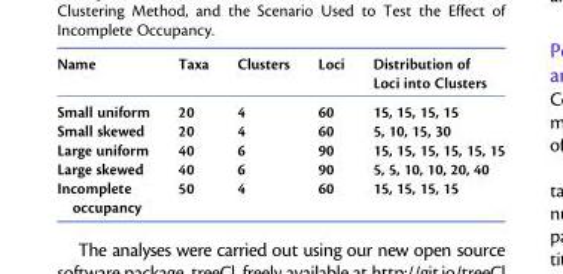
<table><thead><tr><td>Name</td><td>Taxa</td><td>Clusters</td><td>Loci</td><td>Distribution of Loci into Clusters</td></tr></thead><tbody><tr><td>Small uniform</td><td>20</td><td>4</td><td>60</td><td>15, 15, 15, 15</td></tr><tr><td>Small skewed</td><td>20</td><td>4</td><td>60</td><td>5, 10, 15, 30</td></tr><tr><td>Large uniform</td><td>40</td><td>6</td><td>90</td><td>15, 15, 15, 15, 15, 15</td></tr><tr><td>Large skewed</td><td>40</td><td>6</td><td>90</td><td>5, 5, 10, 10, 20, 40</td></tr><tr><td>Incomplete occupancy</td><td>50</td><td>4</td><td>60</td><td>15, 15, 15, 15</td></tr></tbody></table>